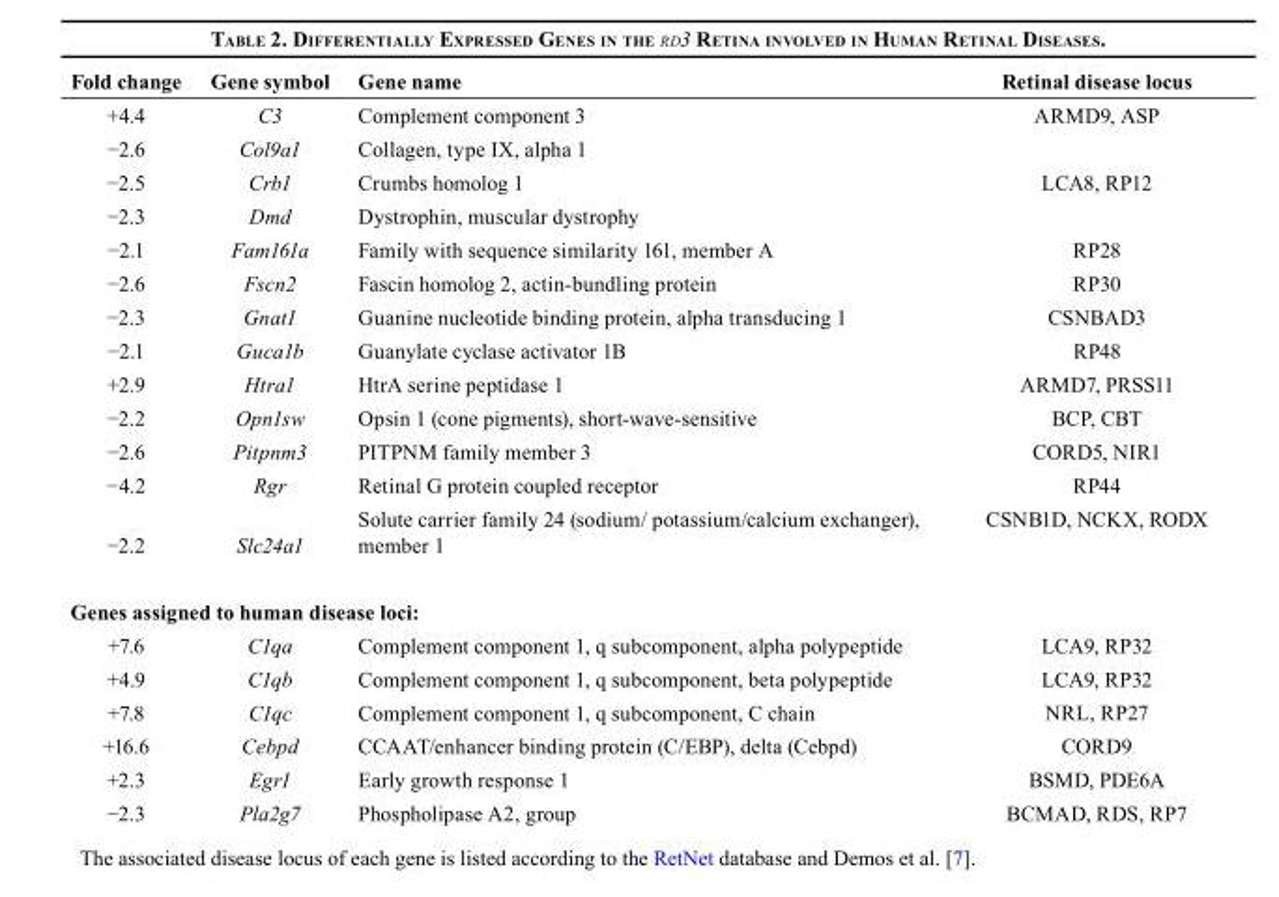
<table><thead><tr><td>Fold change</td><td>Gene symbol</td><td>Gene name</td><td>Retinal disease locus</td></tr></thead><tbody><tr><td>+4.4</td><td>C3</td><td>Complement component 3</td><td>ARMD9, ASP</td></tr><tr><td>−2.6</td><td>Col9a1</td><td>Collagen, type IX, alpha 1</td><td></td></tr><tr><td>−2.5</td><td>Crb1</td><td>Crumbs homolog 1</td><td>LCA8, RP12</td></tr><tr><td>−2.3</td><td>Dmd</td><td>Dystrophin, muscular dystrophy</td><td></td></tr><tr><td>−2.1</td><td>Fam161a</td><td>Family with sequence similarity 161, member A</td><td>RP28</td></tr><tr><td>−2.6</td><td>Fscn2</td><td>Fascin homolog 2, actin-bundling protein</td><td>RP30</td></tr><tr><td>−2.3</td><td>Gnat1</td><td>Guanine nucleotide binding protein, alpha transducing 1</td><td>CSNBAD3</td></tr><tr><td>−2.1</td><td>Guca1b</td><td>Guanylate cyclase activator 1B</td><td>RP48</td></tr><tr><td>+2.9</td><td>Htra1</td><td>HtrA serine peptidase 1</td><td>ARMD7, PRSS11</td></tr><tr><td>−2.2</td><td>Opn1sw</td><td>Opsin 1 (cone pigments), short-wave-sensitive</td><td>BCP, CBT</td></tr><tr><td>−2.6</td><td>Pitpnm3</td><td>PITPNM family member 3</td><td>CORD5, NIR1</td></tr><tr><td>−4.2</td><td>Rgr</td><td>Retinal G protein coupled receptor</td><td>RP44</td></tr><tr><td>−2.2</td><td>Slc24a1</td><td>Solute carrier family 24 (sodium/ potassium/calcium exchanger), member 1</td><td>CSNB1D, NCKX, RODX</td></tr><tr><td colspan="4">Genes assigned to human disease loci:</td></tr><tr><td>+7.6</td><td>C1qa</td><td>Complement component 1, q subcomponent, alpha polypeptide</td><td>LCA9, RP32</td></tr><tr><td>+4.9</td><td>C1qb</td><td>Complement component 1, q subcomponent, beta polypeptide</td><td>LCA9, RP32</td></tr><tr><td>+7.8</td><td>C1qc</td><td>Complement component 1, q subcomponent, C chain</td><td>NRL, RP27</td></tr><tr><td>+16.6</td><td>Cebpd</td><td>CCAAT/enhancer binding protein (C/EBP), delta (Cebpd)</td><td>CORD9</td></tr><tr><td>+2.3</td><td>Egr1</td><td>Early growth response 1</td><td>BSMD, PDE6A</td></tr><tr><td>−2.3</td><td>Pla2g7</td><td>Phospholipase A2, group</td><td>BCMAD, RDS, RP7</td></tr></tbody></table>